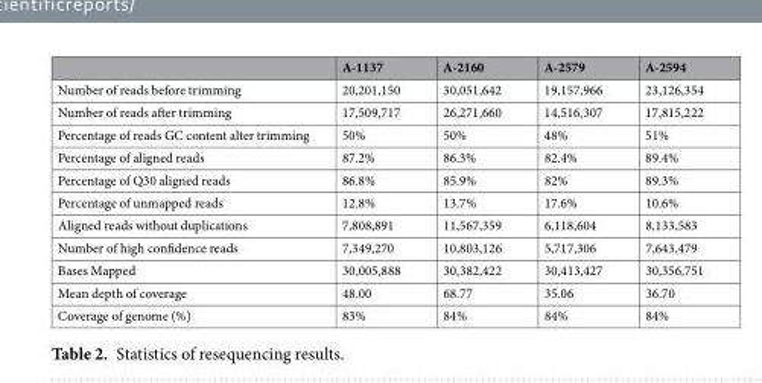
<table><thead><tr><td></td><td>A-1137</td><td>A-2160</td><td>A-2579</td><td>A-2594</td></tr></thead><tbody><tr><td>Number of reads before trimming</td><td>20,201,150</td><td>30,051,642</td><td>19,157,966</td><td>23,126,354</td></tr><tr><td>Number of reads after trimming</td><td>17,509,717</td><td>26,271,660</td><td>14,516,307</td><td>17,815,222</td></tr><tr><td>Percentage of reads GC content alter trimming</td><td>50%</td><td>50%</td><td>48%</td><td>51%</td></tr><tr><td>Percentage of aligned reads</td><td>87.2%</td><td>86.3%</td><td>82.4%</td><td>89.4%</td></tr><tr><td>Percentage of Q30 aligned reads</td><td>86.8%</td><td>85.9%</td><td>82%</td><td>89.3%</td></tr><tr><td>Percentage of unmapped reads</td><td>12.8%</td><td>13.7%</td><td>17.6%</td><td>10.6%</td></tr><tr><td>Aligned reads without duplications</td><td>7,808,891</td><td>11,567,359</td><td>6,118,604</td><td>8,133,583</td></tr><tr><td>Number of high confidence reads</td><td>7,349,270</td><td>10,803,126</td><td>5,717,306</td><td>7,643,479</td></tr><tr><td>Bases Mapped</td><td>30,005,888</td><td>30,382,422</td><td>30,413,427</td><td>30,356,751</td></tr><tr><td>Mean depth of coverage</td><td>48.00</td><td>68.77</td><td>35.06</td><td>36.70</td></tr><tr><td>Coverage of genome (%)</td><td>83%</td><td>84%</td><td>84%</td><td>84%</td></tr></tbody></table>